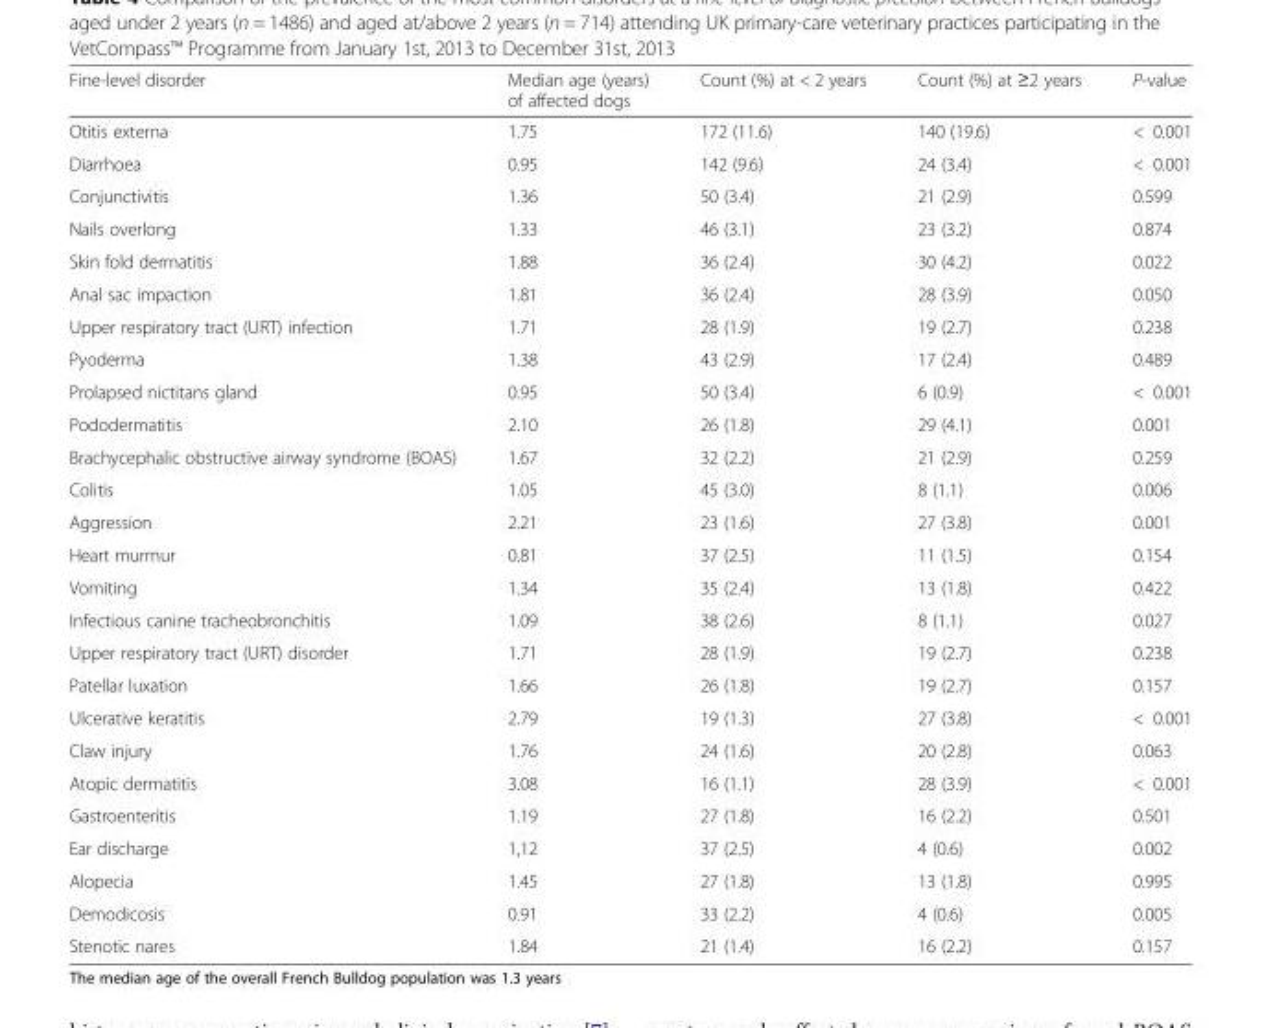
<table><thead><tr><td>Fine-level disorder</td><td>Median age (years) of affected dogs</td><td>Count (%) at &lt; 2 years</td><td>Count (%) at ≥2 years</td><td>P-value</td></tr></thead><tbody><tr><td>Otitis externa</td><td>1.75</td><td>172 (11.6)</td><td>140 (19.6)</td><td>&lt; 0.001</td></tr><tr><td>Diarrhoea</td><td>0.95</td><td>142 (9.6)</td><td>24 (3.4)</td><td>&lt; 0.001</td></tr><tr><td>Conjunctivitis</td><td>1.36</td><td>50 (3.4)</td><td>21 (2.9)</td><td>0.599</td></tr><tr><td>Nails overlong</td><td>1.33</td><td>46 (3.1)</td><td>23 (3.2)</td><td>0.874</td></tr><tr><td>Skin fold dermatitis</td><td>1.88</td><td>36 (2.4)</td><td>30 (4.2)</td><td>0.022</td></tr><tr><td>Anal sac impaction</td><td>1.81</td><td>36 (2.4)</td><td>28 (3.9)</td><td>0.050</td></tr><tr><td>Upper respiratory tract (URT) infection</td><td>1.71</td><td>28 (1.9)</td><td>19 (2.7)</td><td>0.238</td></tr><tr><td>Pyoderma</td><td>1.38</td><td>43 (2.9)</td><td>17 (2.4)</td><td>0.489</td></tr><tr><td>Prolapsed nictitans gland</td><td>0.95</td><td>50 (3.4)</td><td>6 (0.9)</td><td>&lt; 0.001</td></tr><tr><td>Pododermatitis</td><td>2.10</td><td>26 (1.8)</td><td>29 (4.1)</td><td>0.001</td></tr><tr><td>Brachycephalic obstructive airway syndrome (BOAS)</td><td>1.67</td><td>32 (2.2)</td><td>21 (2.9)</td><td>0.259</td></tr><tr><td>Colitis</td><td>1.05</td><td>45 (3.0)</td><td>8 (1.1)</td><td>0.006</td></tr><tr><td>Aggression</td><td>2.21</td><td>23 (1.6)</td><td>27 (3.8)</td><td>0.001</td></tr><tr><td>Heart murmur</td><td>0.81</td><td>37 (2.5)</td><td>11 (1.5)</td><td>0.154</td></tr><tr><td>Vomiting</td><td>1.34</td><td>35 (2.4)</td><td>13 (1.8)</td><td>0.422</td></tr><tr><td>Infectious canine tracheobronchitis</td><td>1.09</td><td>38 (2.6)</td><td>8 (1.1)</td><td>0.027</td></tr><tr><td>Upper respiratory tract (URT) disorder</td><td>1.71</td><td>28 (1.9)</td><td>19 (2.7)</td><td>0.238</td></tr><tr><td>Patellar luxation</td><td>1.66</td><td>26 (1.8)</td><td>19 (2.7)</td><td>0.157</td></tr><tr><td>Ulcerative keratitis</td><td>2.79</td><td>19 (1.3)</td><td>27 (3.8)</td><td>&lt; 0.001</td></tr><tr><td>Claw injury</td><td>1.76</td><td>24 (1.6)</td><td>20 (2.8)</td><td>0.063</td></tr><tr><td>Atopic dermatitis</td><td>3.08</td><td>16 (1.1)</td><td>28 (3.9)</td><td>&lt; 0.001</td></tr><tr><td>Gastroenteritis</td><td>1.19</td><td>27 (1.8)</td><td>16 (2.2)</td><td>0.501</td></tr><tr><td>Ear discharge</td><td>1,12</td><td>37 (2.5)</td><td>4 (0.6)</td><td>0.002</td></tr><tr><td>Alopecia</td><td>1.45</td><td>27 (1.8)</td><td>13 (1.8)</td><td>0.995</td></tr><tr><td>Demodicosis</td><td>0.91</td><td>33 (2.2)</td><td>4 (0.6)</td><td>0.005</td></tr><tr><td>Stenotic nares</td><td>1.84</td><td>21 (1.4)</td><td>16 (2.2)</td><td>0.157</td></tr></tbody></table>